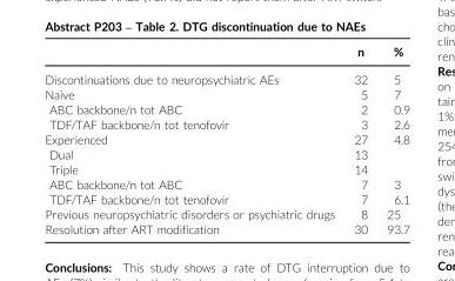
<table><thead><tr><td></td><td>n</td><td>%</td></tr></thead><tbody><tr><td>Discontinuations due to neuropsychiatric AEs</td><td>32</td><td>5</td></tr><tr><td>Naive</td><td>5</td><td>7</td></tr><tr><td>ABC backbone/n tot ABC</td><td>2</td><td>0.9</td></tr><tr><td>TDF/TAF backbone/n tot tenofovir</td><td>3</td><td>2.6</td></tr><tr><td>Experienced</td><td>27</td><td>4.8</td></tr><tr><td>Dual</td><td>13</td><td></td></tr><tr><td>Triple</td><td>14</td><td></td></tr><tr><td>ABC backbone/n tot ABC</td><td>7</td><td>3</td></tr><tr><td>TDF/TAF backbone/n tot tenofovir</td><td>7</td><td>6.1</td></tr><tr><td>Previous neuropsychiatric disorders or psychiatric drugs</td><td>8</td><td>25</td></tr><tr><td>Resolution after ART modification</td><td>30</td><td>93.7</td></tr></tbody></table>